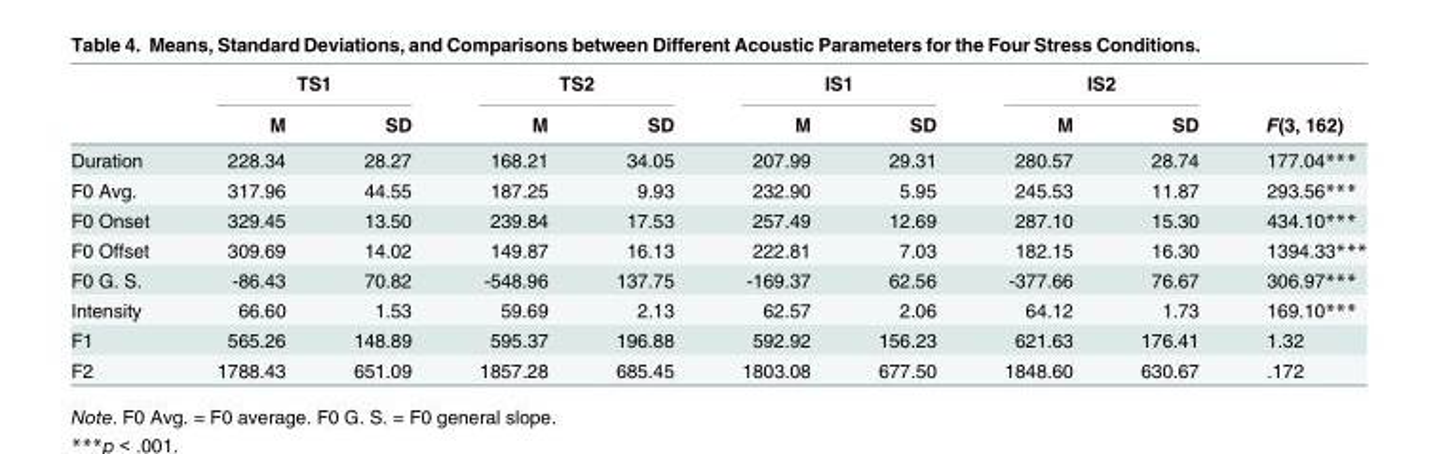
<table><thead><tr><td rowspan="2"></td><td colspan="2">TS1</td><td colspan="2">TS2</td><td colspan="2">IS1</td><td colspan="2">IS2</td><td rowspan="2">F(3, 162)</td></tr><tr><td>M</td><td>SD</td><td>M</td><td>SD</td><td>M</td><td>SD</td><td>M</td><td>SD</td></tr></thead><tbody><tr><td>Duration</td><td>228.34</td><td>28.27</td><td>168.21</td><td>34.05</td><td>207.99</td><td>29.31</td><td>280.57</td><td>28.74</td><td>177.04***</td></tr><tr><td>F0 Avg.</td><td>317.96</td><td>44.55</td><td>187.25</td><td>9.93</td><td>232.90</td><td>5.95</td><td>245.53</td><td>11.87</td><td>293.56***</td></tr><tr><td>F0 Onset</td><td>329.45</td><td>13.50</td><td>239.84</td><td>17.53</td><td>257.49</td><td>12.69</td><td>287.10</td><td>15.30</td><td>434.10***</td></tr><tr><td>F0 Offset</td><td>309.69</td><td>14.02</td><td>149.87</td><td>16.13</td><td>222.81</td><td>7.03</td><td>182.15</td><td>16.30</td><td>1394.33***</td></tr><tr><td>F0 G. S.</td><td>-86.43</td><td>70.82</td><td>-548.96</td><td>137.75</td><td>-169.37</td><td>62.56</td><td>-377.66</td><td>76.67</td><td>306.97***</td></tr><tr><td>Intensity</td><td>66.60</td><td>1.53</td><td>59.69</td><td>2.13</td><td>62.57</td><td>2.06</td><td>64.12</td><td>1.73</td><td>169.10***</td></tr><tr><td>F1</td><td>565.26</td><td>148.89</td><td>595.37</td><td>196.88</td><td>592.92</td><td>156.23</td><td>621.63</td><td>176.41</td><td>1.32</td></tr><tr><td>F2</td><td>1788.43</td><td>651.09</td><td>1857.28</td><td>685.45</td><td>1803.08</td><td>677.50</td><td>1848.60</td><td>630.67</td><td>.172</td></tr></tbody></table>